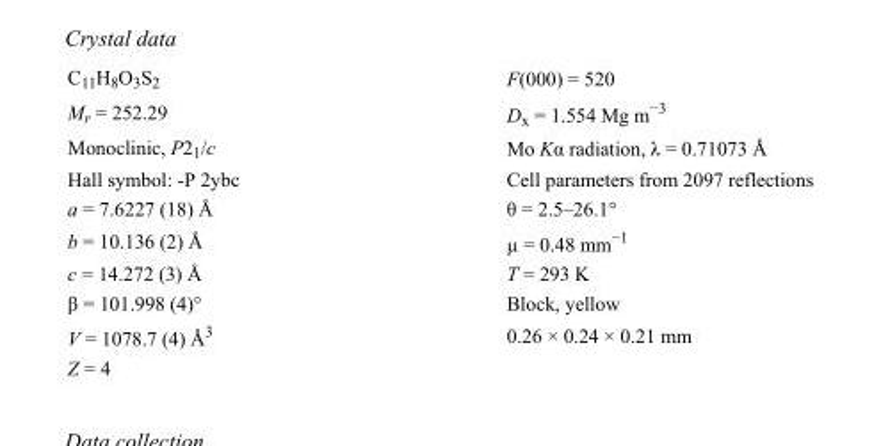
<table><tbody><tr><td>C<sub>11</sub>H<sub>8</sub>O<sub>3</sub>S<sub>2</sub></td><td>F(000) = 520</td></tr><tr><td>M<sub>r</sub> = 252.29</td><td>D<sub>x</sub> = 1.554 Mg m<sup>−3</sup></td></tr><tr><td>Monoclinic, P2<sub>1</sub>/c</td><td>Mo Kα radiation, λ = 0.71073 Å</td></tr><tr><td>Hall symbol: -P 2ybc</td><td>Cell parameters from 2097 reflections</td></tr><tr><td>a = 7.6227 (18) Å</td><td>θ = 2.5–26.1°</td></tr><tr><td>b = 10.136 (2) Å</td><td>µ = 0.48 mm<sup>−1</sup></td></tr><tr><td>c = 14.272 (3) Å</td><td>T = 293 K</td></tr><tr><td>β = 101.998 (4)°</td><td>Block, yellow</td></tr><tr><td>V = 1078.7 (4) Å<sup>3</sup></td><td>0.26 × 0.24 × 0.21 mm</td></tr><tr><td>Z = 4</td><td></td></tr></tbody></table>